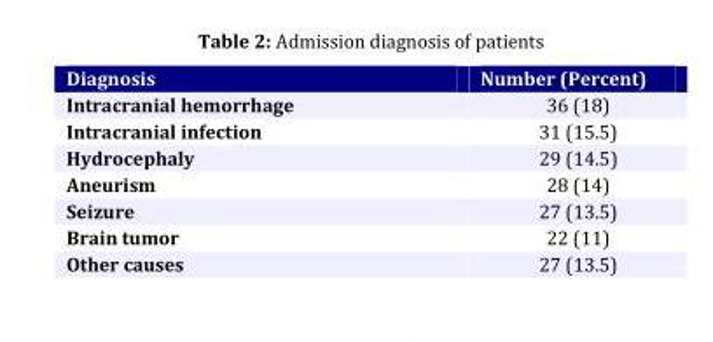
<table><tbody><tr><td>Diagnosis</td><td>Number (Percent)</td></tr><tr><td>Intracranial hemorrhage</td><td>36 (18)</td></tr><tr><td>Intracranial infection</td><td>31 (15.5)</td></tr><tr><td>Hydrocephaly</td><td>29 (14.5)</td></tr><tr><td>Aneurism</td><td>28 (14)</td></tr><tr><td>Seizure</td><td>27 (13.5)</td></tr><tr><td>Brain tumor</td><td>22 (11)</td></tr><tr><td>Other causes</td><td>27 (13.5)</td></tr></tbody></table>